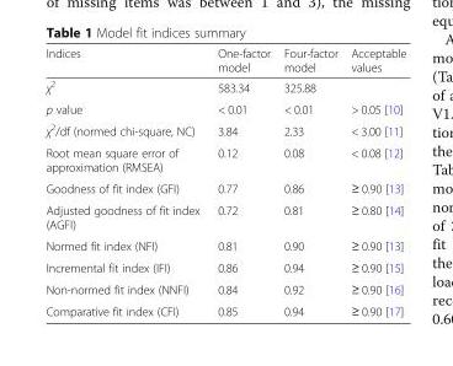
<table><thead><tr><td>Indices</td><td>One-factor model</td><td>Four-factor model</td><td>Acceptable values</td></tr></thead><tbody><tr><td>χ<sup>2</sup></td><td>583.34</td><td>325.88</td><td></td></tr><tr><td>p value</td><td>&lt; 0.01</td><td>&lt; 0.01</td><td>&gt; 0.05 [10]</td></tr><tr><td>χ<sup>2</sup>/df (normed chi-square, NC)</td><td>3.84</td><td>2.33</td><td>&lt; 3.00 [11]</td></tr><tr><td>Root mean square error of approximation (RMSEA)</td><td>0.12</td><td>0.08</td><td>&lt; 0.08 [12]</td></tr><tr><td>Goodness of fit index (GFI)</td><td>0.77</td><td>0.86</td><td>≥ 0.90 [13]</td></tr><tr><td>Adjusted goodness of fit index (AGFI)</td><td>0.72</td><td>0.81</td><td>≥ 0.80 [14]</td></tr><tr><td>Normed fit index (NFI)</td><td>0.81</td><td>0.90</td><td>≥ 0.90 [13]</td></tr><tr><td>Incremental fit index (IFI)</td><td>0.86</td><td>0.94</td><td>≥ 0.90 [15]</td></tr><tr><td>Non-normed fit index (NNFI)</td><td>0.84</td><td>0.92</td><td>≥ 0.90 [16]</td></tr><tr><td>Comparative fit index (CFI)</td><td>0.85</td><td>0.94</td><td>≥ 0.90 [17]</td></tr></tbody></table>